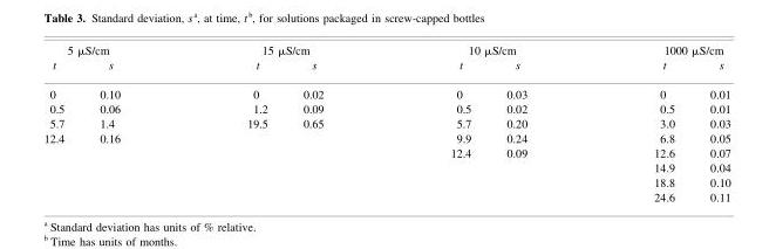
<table><thead><tr><td colspan="2">5 μS/cm</td><td colspan="2">15 μS/cm</td><td colspan="2">10 μS/cm</td><td colspan="2">1000 μS/cm</td></tr><tr><td>t</td><td>s</td><td>t</td><td>s</td><td>t</td><td>s</td><td>t</td><td>s</td></tr></thead><tbody><tr><td>0</td><td>0.10</td><td>0</td><td>0.02</td><td>0</td><td>0.03</td><td>0</td><td>0.01</td></tr><tr><td>0.5</td><td>0.06</td><td>1.2</td><td>0.09</td><td>0.5</td><td>0.02</td><td>0.5</td><td>0.01</td></tr><tr><td>5.7</td><td>1.4</td><td>19.5</td><td>0.65</td><td>5.7</td><td>0.20</td><td>3.0</td><td>0.03</td></tr><tr><td rowspan="5">12.4</td><td>0.16</td><td></td><td></td><td>9.9</td><td>0.24</td><td>6.8</td><td>0.05</td></tr><tr><td></td><td></td><td></td><td>12.4</td><td>0.09</td><td>12.6</td><td>0.07</td></tr><tr><td></td><td></td><td></td><td></td><td></td><td>14.9</td><td>0.04</td></tr><tr><td></td><td></td><td></td><td></td><td></td><td>18.8</td><td>0.10</td></tr><tr><td></td><td></td><td></td><td></td><td></td><td>24.6</td><td>0.11</td></tr></tbody></table>